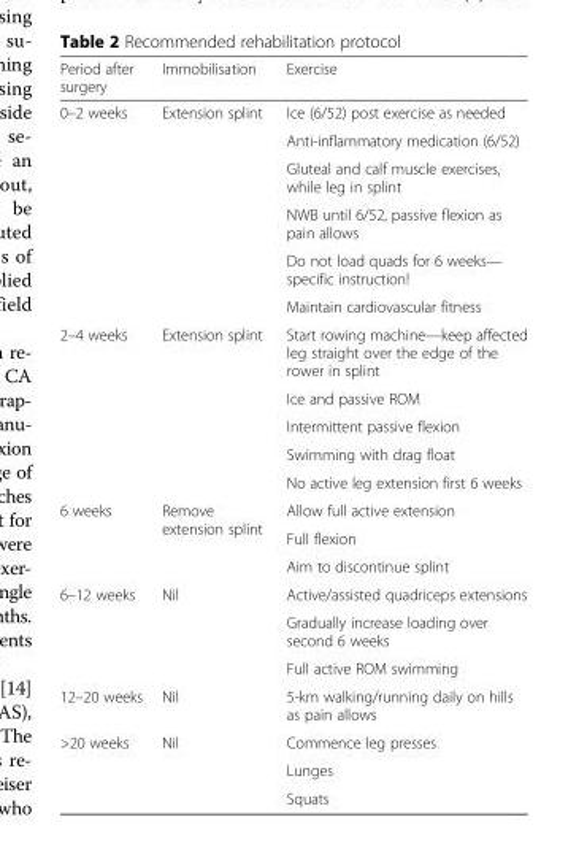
<table><thead><tr><td>Period after surgery</td><td>Immobilisation</td><td>Exercise</td></tr></thead><tbody><tr><td rowspan="6">0–2 weeks</td><td rowspan="2">Extension splint</td><td>Ice (6/52) post exercise as needed</td></tr><tr><td>Anti-inflammatory medication (6/52)</td></tr><tr><td rowspan="4"></td><td>Gluteal and calf muscle exercises, while leg in splint</td></tr><tr><td>NWB until 6/52, passive flexion as pain allows</td></tr><tr><td>Do not load quads for 6 weeks— specific instruction!</td></tr><tr><td>Maintain cardiovascular fitness</td></tr><tr><td rowspan="5">2–4 weeks</td><td>Extension splint</td><td>Start rowing machine—keep affected leg straight over the edge of the rower in splint</td></tr><tr><td></td><td>Ice and passive ROM</td></tr><tr><td></td><td>Intermittent passive flexion</td></tr><tr><td></td><td>Swimming with drag float</td></tr><tr><td></td><td>No active leg extension first 6 weeks</td></tr><tr><td rowspan="3">6 weeks</td><td rowspan="3">Remove extension splint</td><td>Allow full active extension</td></tr><tr><td>Full flexion</td></tr><tr><td>Aim to discontinue splint</td></tr><tr><td rowspan="3">6–12 weeks</td><td>Nil</td><td>Active/assisted quadriceps extensions</td></tr><tr><td></td><td>Gradually increase loading over second 6 weeks</td></tr><tr><td></td><td>Full active ROM swimming</td></tr><tr><td>12–20 weeks</td><td>Nil</td><td>5-km walking/running daily on hills as pain allows</td></tr><tr><td rowspan="3">&gt;20 weeks</td><td>Nil</td><td>Commence leg presses</td></tr><tr><td></td><td>Lunges</td></tr><tr><td></td><td>Squats</td></tr></tbody></table>